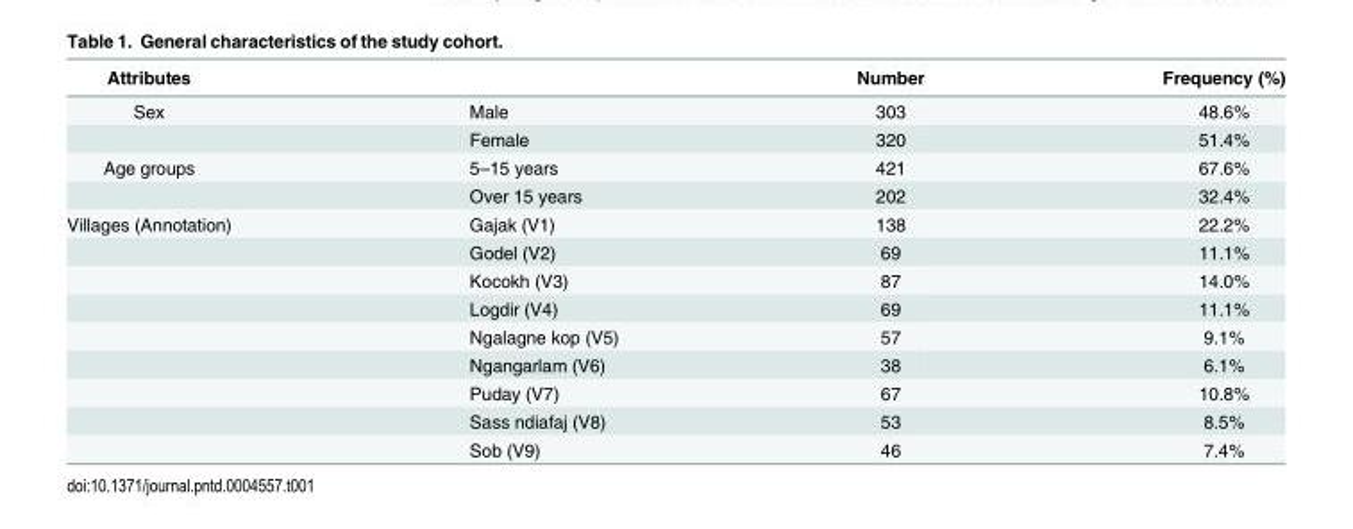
<table><thead><tr><td>Attributes</td><td></td><td>Number</td><td>Frequency (%)</td></tr></thead><tbody><tr><td rowspan="2">Sex</td><td>Male</td><td>303</td><td>48.6%</td></tr><tr><td>Female</td><td>320</td><td>51.4%</td></tr><tr><td rowspan="2">Age groups</td><td>5–15 years</td><td>421</td><td>67.6%</td></tr><tr><td>Over 15 years</td><td>202</td><td>32.4%</td></tr><tr><td rowspan="9">Villages (Annotation)</td><td>Gajak (V1)</td><td>138</td><td>22.2%</td></tr><tr><td>Godel (V2)</td><td>69</td><td>11.1%</td></tr><tr><td>Kocokh (V3)</td><td>87</td><td>14.0%</td></tr><tr><td>Logdir (V4)</td><td>69</td><td>11.1%</td></tr><tr><td>Ngalagne kop (V5)</td><td>57</td><td>9.1%</td></tr><tr><td>Ngangarlam (V6)</td><td>38</td><td>6.1%</td></tr><tr><td>Puday (V7)</td><td>67</td><td>10.8%</td></tr><tr><td>Sass ndiafaj (V8)</td><td>53</td><td>8.5%</td></tr><tr><td>Sob (V9)</td><td>46</td><td>7.4%</td></tr></tbody></table>